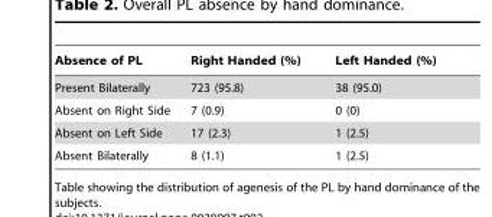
<table><thead><tr><td>Absence of PL</td><td>Right Handed (%)</td><td>Left Handed (%)</td></tr></thead><tbody><tr><td>Present Bilaterally</td><td>723 (95.8)</td><td>38 (95.0)</td></tr><tr><td>Absent on Right Side</td><td>7 (0.9)</td><td>0 (0)</td></tr><tr><td>Absent on Left Side</td><td>17 (2.3)</td><td>1 (2.5)</td></tr><tr><td>Absent Bilaterally</td><td>8 (1.1)</td><td>1 (2.5)</td></tr></tbody></table>